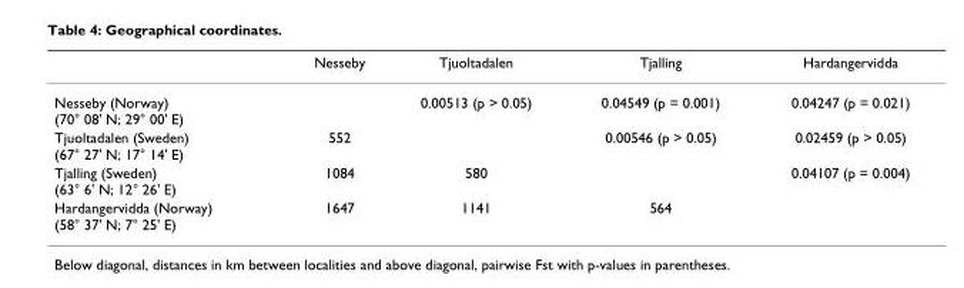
<table><thead><tr><td></td><td>Nesseby</td><td>Tjuoltadalen</td><td>Tjalling</td><td>Hardangervidda</td></tr></thead><tbody><tr><td>Nesseby (Norway) (70° 08&#x27; N; 29° 00&#x27; E)</td><td></td><td>0.00513 (p &gt; 0.05)</td><td>0.04549 (p = 0.001)</td><td>0.04247 (p = 0.021)</td></tr><tr><td>Tjuoltadalen (Sweden) (67° 27&#x27; N; 17° 14&#x27; E)</td><td>552</td><td></td><td>0.00546 (p &gt; 0.05)</td><td>0.02459 (p &gt; 0.05)</td></tr><tr><td>Tjalling (Sweden) (63° 6&#x27; N; 12° 26&#x27; E)</td><td>1084</td><td>580</td><td></td><td>0.04107 (p = 0.004)</td></tr><tr><td>Hardangervidda (Norway) (58° 37&#x27; N; 7° 25&#x27; E)</td><td>1647</td><td>1141</td><td>564</td><td></td></tr></tbody></table>